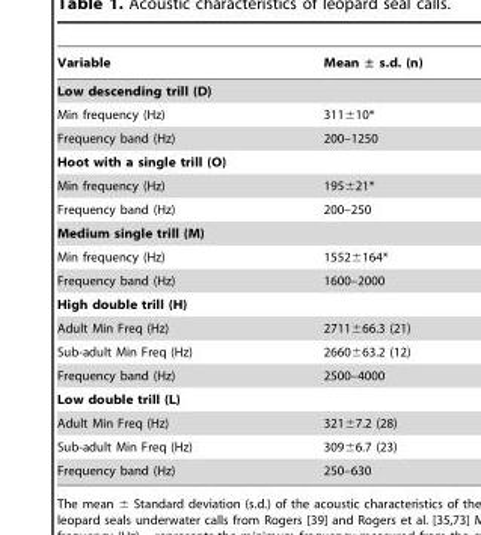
<table><thead><tr><td>Variable</td><td>Mean ± s.d. (n)</td></tr></thead><tbody><tr><td colspan="2">Low descending trill (D)</td></tr><tr><td>Min frequency (Hz)</td><td>311±10*</td></tr><tr><td>Frequency band (Hz)</td><td>200–1250</td></tr><tr><td colspan="2">Hoot with a single trill (O)</td></tr><tr><td>Min frequency (Hz)</td><td>195±21*</td></tr><tr><td>Frequency band (Hz)</td><td>200–250</td></tr><tr><td colspan="2">Medium single trill (M)</td></tr><tr><td>Min frequency (Hz)</td><td>1552±164*</td></tr><tr><td>Frequency band (Hz)</td><td>1600–2000</td></tr><tr><td colspan="2">High double trill (H)</td></tr><tr><td>Adult Min Freq (Hz)</td><td>2711±66.3 (21)</td></tr><tr><td>Sub-adult Min Freq (Hz)</td><td>2660±63.2 (12)</td></tr><tr><td>Frequency band (Hz)</td><td>2500–4000</td></tr><tr><td colspan="2">Low double trill (L)</td></tr><tr><td>Adult Min Freq (Hz)</td><td>321±7.2 (28)</td></tr><tr><td>Sub-adult Min Freq (Hz)</td><td>309±6.7 (23)</td></tr><tr><td>Frequency band (Hz)</td><td>250–630</td></tr></tbody></table>